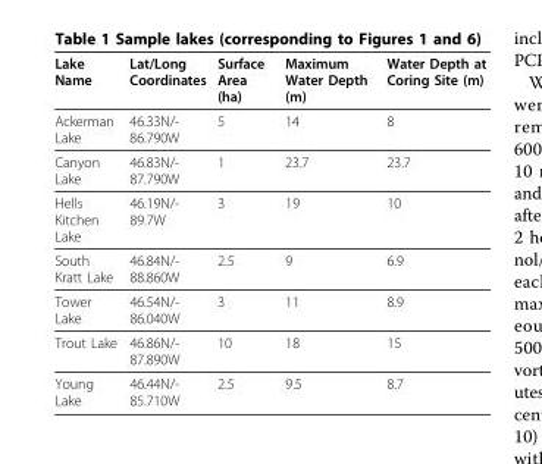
<table><thead><tr><td>Lake Name</td><td>Lat/Long Coordinates</td><td>Surface Area (ha)</td><td>Maximum Water Depth (m)</td><td>Water Depth at Coring Site (m)</td></tr></thead><tbody><tr><td>Ackerman Lake</td><td>46.33N/- 86.790W</td><td>5</td><td>14</td><td>8</td></tr><tr><td>Canyon Lake</td><td>46.83N/- 87.790W</td><td>1</td><td>23.7</td><td>23.7</td></tr><tr><td>Hells Kitchen Lake</td><td>46.19N/- 89.7W</td><td>3</td><td>19</td><td>10</td></tr><tr><td>South Kratt Lake</td><td>46.84N/- 88.860W</td><td>2.5</td><td>9</td><td>6.9</td></tr><tr><td>Tower Lake</td><td>46.54N/- 86.040W</td><td>3</td><td>11</td><td>8.9</td></tr><tr><td>Trout Lake</td><td>46.86N/- 87.890W</td><td>10</td><td>18</td><td>15</td></tr><tr><td>Young Lake</td><td>46.44N/- 85.710W</td><td>2.5</td><td>9.5</td><td>8.7</td></tr></tbody></table>